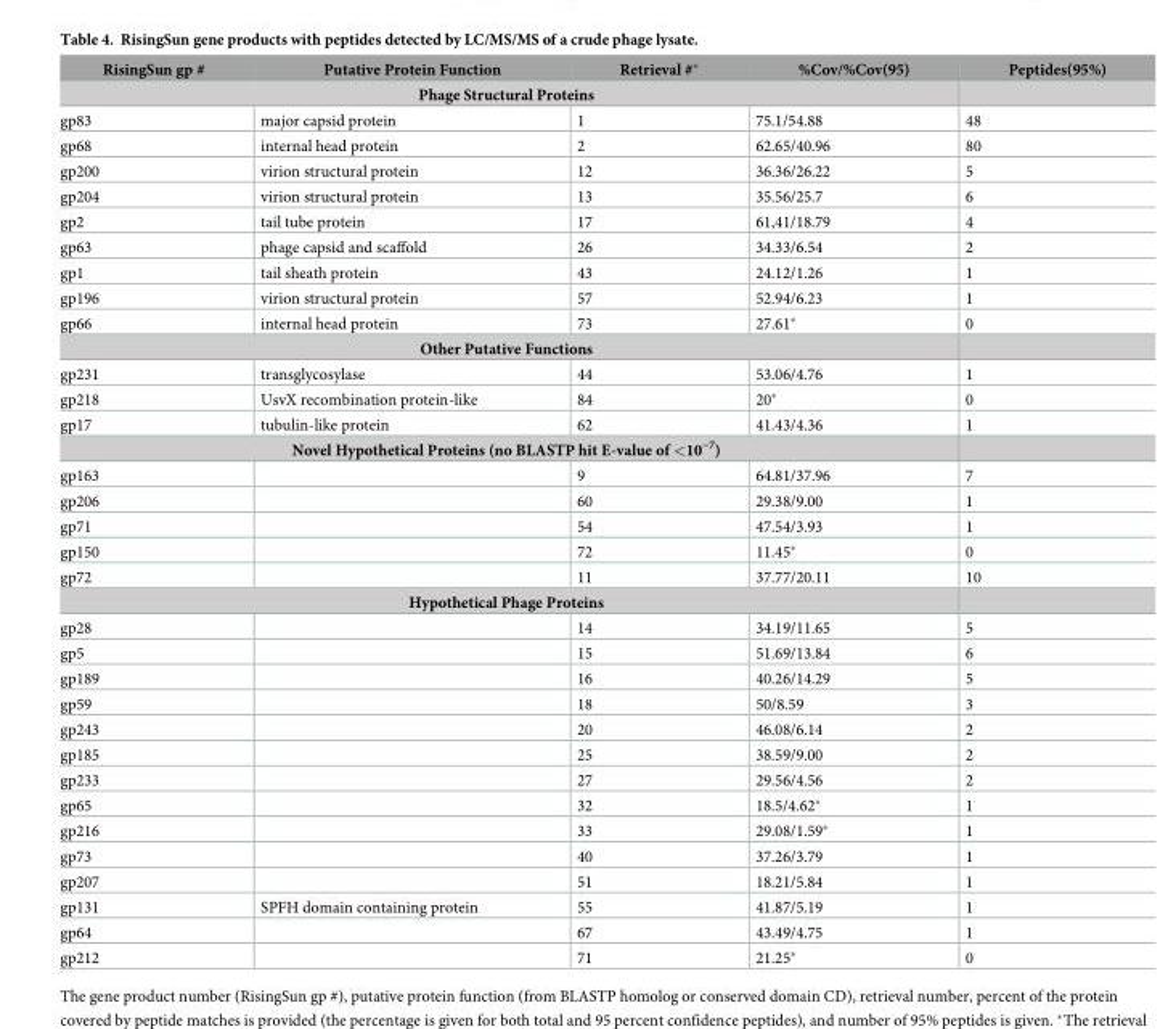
<table><thead><tr><td>RisingSun gp #</td><td>Putative Protein Function</td><td>Retrieval #*</td><td>%Cov/%Cov(95)</td><td>Peptides(95%)</td></tr></thead><tbody><tr><td colspan="5">Phage Structural Proteins</td></tr><tr><td>gp83</td><td>major capsid protein</td><td>1</td><td>75.1/54.88</td><td>48</td></tr><tr><td>gp68</td><td>internal head protein</td><td>2</td><td>62.65/40.96</td><td>80</td></tr><tr><td>gp200</td><td>virion structural protein</td><td>12</td><td>36.36/26.22</td><td>5</td></tr><tr><td>gp204</td><td>virion structural protein</td><td>13</td><td>35.56/25.7</td><td>6</td></tr><tr><td>gp2</td><td>tail tube protein</td><td>17</td><td>61,41/18.79</td><td>4</td></tr><tr><td>gp63</td><td>phage capsid and scaffold</td><td>26</td><td>34.33/6.54</td><td>2</td></tr><tr><td>gp1</td><td>tail sheath protein</td><td>43</td><td>24.12/1.26</td><td>1</td></tr><tr><td>gp196</td><td>virion structural protein</td><td>57</td><td>52.94/6.23</td><td>1</td></tr><tr><td>gp66</td><td>internal head protein</td><td>73</td><td>27.61*</td><td>0</td></tr><tr><td colspan="5">Other Putative Functions</td></tr><tr><td>gp231</td><td>transglycosylase</td><td>44</td><td>53.06/4.76</td><td>1</td></tr><tr><td>gp218</td><td>UsvX recombination protein-like</td><td>84</td><td>20*</td><td>0</td></tr><tr><td>gp17</td><td>tubulin-like protein</td><td>62</td><td>41.43/4.36</td><td>1</td></tr><tr><td colspan="5">Novel Hypothetical Proteins (no BLASTP hit E-value of &lt;10<sup>−7</sup>)</td></tr><tr><td>gp163</td><td></td><td>9</td><td>64.81/37.96</td><td>7</td></tr><tr><td>gp206</td><td></td><td>60</td><td>29.38/9.00</td><td>1</td></tr><tr><td>gp71</td><td></td><td>54</td><td>47.54/3.93</td><td>1</td></tr><tr><td>gp150</td><td></td><td>72</td><td>11.45*</td><td>0</td></tr><tr><td>gp72</td><td></td><td>11</td><td>37.77/20.11</td><td>10</td></tr><tr><td colspan="5">Hypothetical Phage Proteins</td></tr><tr><td>gp28</td><td></td><td>14</td><td>34.19/11.65</td><td>5</td></tr><tr><td>gp5</td><td></td><td>15</td><td>51.69/13.84</td><td>6</td></tr><tr><td>gp189</td><td></td><td>16</td><td>40.26/14.29</td><td>5</td></tr><tr><td>gp59</td><td></td><td>18</td><td>50/8.59</td><td>3</td></tr><tr><td>gp243</td><td></td><td>20</td><td>46.08/6.14</td><td>2</td></tr><tr><td>gp185</td><td></td><td>25</td><td>38.59/9.00</td><td>2</td></tr><tr><td>gp233</td><td></td><td>27</td><td>29.56/4.56</td><td>2</td></tr><tr><td>gp65</td><td></td><td>32</td><td>18.5/4.62*</td><td>1</td></tr><tr><td>gp216</td><td></td><td>33</td><td>29.08/1.59*</td><td>1</td></tr><tr><td>gp73</td><td></td><td>40</td><td>37.26/3.79</td><td>1</td></tr><tr><td>gp207</td><td></td><td>51</td><td>18.21/5.84</td><td>1</td></tr><tr><td>gp131</td><td>SPFH domain containing protein</td><td>55</td><td>41.87/5.19</td><td>1</td></tr><tr><td>gp64</td><td></td><td>67</td><td>43.49/4.75</td><td>1</td></tr><tr><td>gp212</td><td></td><td>71</td><td>21.25*</td><td>0</td></tr></tbody></table>